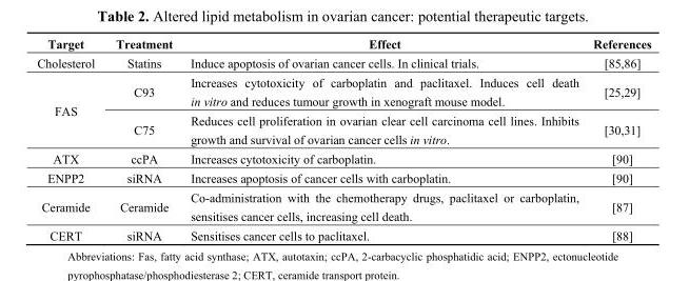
<table><thead><tr><td>Target</td><td>Treatment</td><td>Effect</td><td>References</td></tr></thead><tbody><tr><td>Cholesterol</td><td>Statins</td><td>Induce apoptosis of ovarian cancer cells. In clinical trials.</td><td>[85,86]</td></tr><tr><td rowspan="2">FAS</td><td>C93</td><td>Increases cytotoxicity of carboplatin and paclitaxel. Induces cell death in vitro and reduces tumour growth in xenograft mouse model.</td><td>[25,29]</td></tr><tr><td>C75</td><td>Reduces cell proliferation in ovarian clear cell carcinoma cell lines. Inhibits growth and survival of ovarian cancer cells in vitro.</td><td>[30,31]</td></tr><tr><td>ATX</td><td>ccPA</td><td>Increases cytotoxicity of carboplatin.</td><td>[90]</td></tr><tr><td>ENPP2</td><td>siRNA</td><td>Increases apoptosis of cancer cells with carboplatin.</td><td>[90]</td></tr><tr><td>Ceramide</td><td>Ceramide</td><td>Co-administration with the chemotherapy drugs, paclitaxel or carboplatin, sensitises cancer cells, increasing cell death.</td><td>[87]</td></tr><tr><td>CERT</td><td>siRNA</td><td>Sensitises cancer cells to paclitaxel.</td><td>[88]</td></tr></tbody></table>